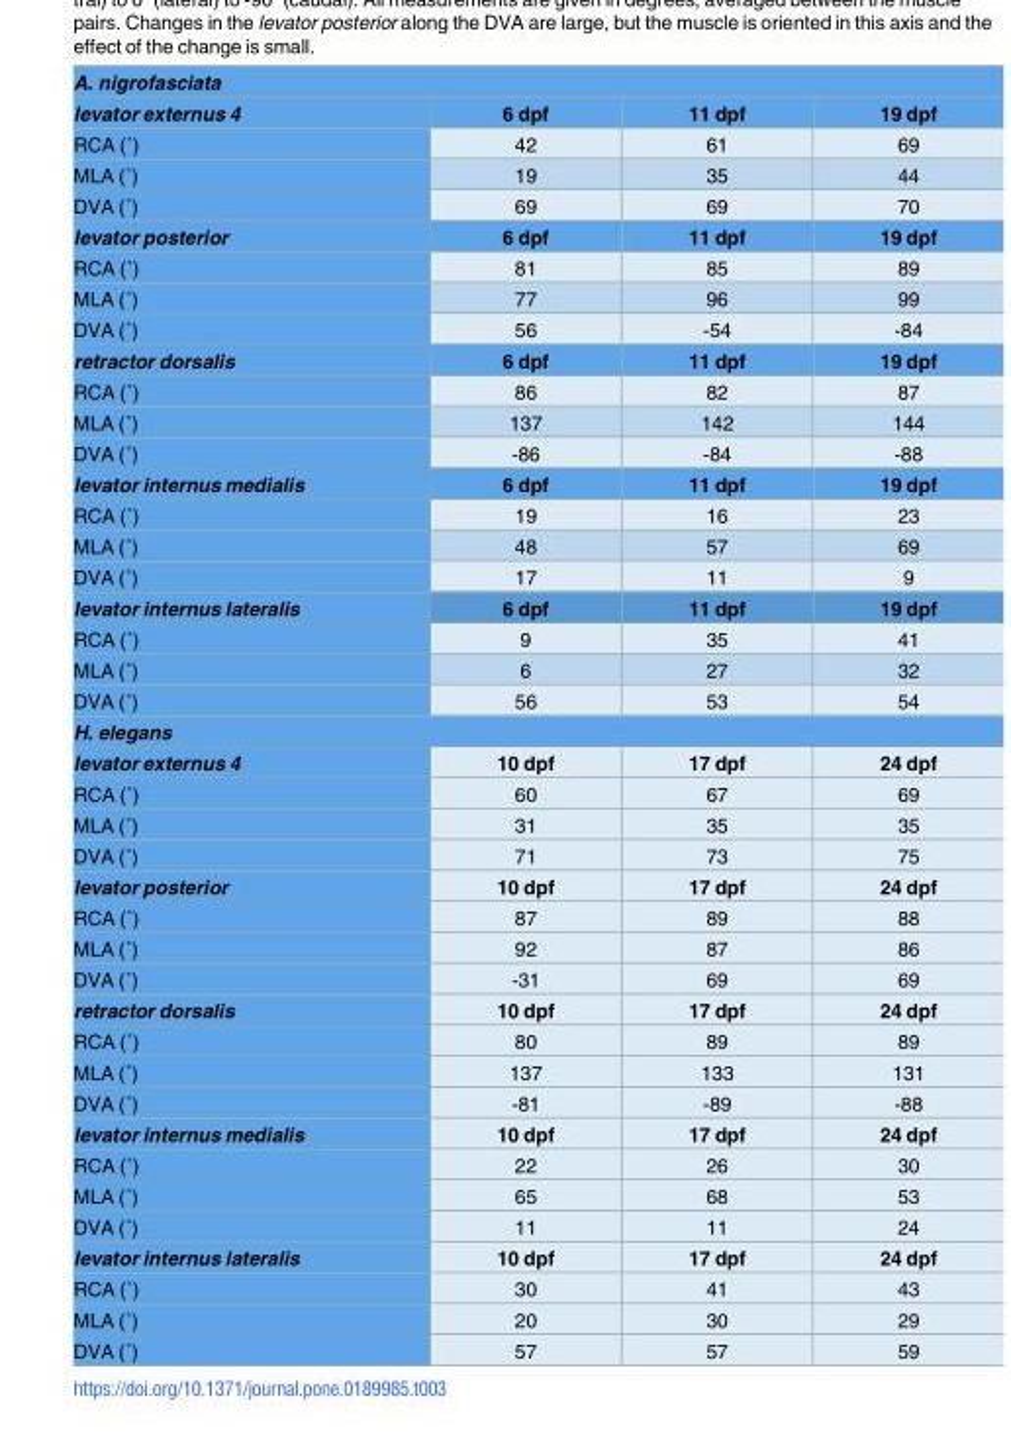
<table><thead><tr><td colspan="4">A. nigrofasciata</td></tr><tr><td>levator externus 4</td><td>6 dpf</td><td>11 dpf</td><td>19 dpf</td></tr></thead><tbody><tr><td>RCA (˚)</td><td>42</td><td>61</td><td>69</td></tr><tr><td>MLA (˚)</td><td>19</td><td>35</td><td>44</td></tr><tr><td>DVA (˚)</td><td>69</td><td>69</td><td>70</td></tr><tr><td>levator posterior</td><td>6 dpf</td><td>11 dpf</td><td>19 dpf</td></tr><tr><td>RCA (˚)</td><td>81</td><td>85</td><td>89</td></tr><tr><td>MLA (˚)</td><td>77</td><td>96</td><td>99</td></tr><tr><td>DVA (˚)</td><td>56</td><td>-54</td><td>-84</td></tr><tr><td>retractor dorsalis</td><td>6 dpf</td><td>11 dpf</td><td>19 dpf</td></tr><tr><td>RCA (˚)</td><td>86</td><td>82</td><td>87</td></tr><tr><td>MLA (˚)</td><td>137</td><td>142</td><td>144</td></tr><tr><td>DVA (˚)</td><td>-86</td><td>-84</td><td>-88</td></tr><tr><td>levator internus medialis</td><td>6 dpf</td><td>11 dpf</td><td>19 dpf</td></tr><tr><td>RCA (˚)</td><td>19</td><td>16</td><td>23</td></tr><tr><td>MLA (˚)</td><td>48</td><td>57</td><td>69</td></tr><tr><td>DVA (˚)</td><td>17</td><td>11</td><td>9</td></tr><tr><td>levator internus lateralis</td><td>6 dpf</td><td>11 dpf</td><td>19 dpf</td></tr><tr><td>RCA (˚)</td><td>9</td><td>35</td><td>41</td></tr><tr><td>MLA (˚)</td><td>6</td><td>27</td><td>32</td></tr><tr><td>DVA (˚)</td><td>56</td><td>53</td><td>54</td></tr><tr><td colspan="4">H. elegans</td></tr><tr><td>levator externus 4</td><td>10 dpf</td><td>17 dpf</td><td>24 dpf</td></tr><tr><td>RCA (˚)</td><td>60</td><td>67</td><td>69</td></tr><tr><td>MLA (˚)</td><td>31</td><td>35</td><td>35</td></tr><tr><td>DVA (˚)</td><td>71</td><td>73</td><td>75</td></tr><tr><td>levator posterior</td><td>10 dpf</td><td>17 dpf</td><td>24 dpf</td></tr><tr><td>RCA (˚)</td><td>87</td><td>89</td><td>88</td></tr><tr><td>MLA (˚)</td><td>92</td><td>87</td><td>86</td></tr><tr><td>DVA (˚)</td><td>-31</td><td>69</td><td>69</td></tr><tr><td>retractor dorsalis</td><td>10 dpf</td><td>17 dpf</td><td>24 dpf</td></tr><tr><td>RCA (˚)</td><td>80</td><td>89</td><td>89</td></tr><tr><td>MLA (˚)</td><td>137</td><td>133</td><td>131</td></tr><tr><td>DVA (˚)</td><td>-81</td><td>-89</td><td>-88</td></tr><tr><td>levator internus medialis</td><td>10 dpf</td><td>17 dpf</td><td>24 dpf</td></tr><tr><td>RCA (˚)</td><td>22</td><td>26</td><td>30</td></tr><tr><td>MLA (˚)</td><td>65</td><td>68</td><td>53</td></tr><tr><td>DVA (˚)</td><td>11</td><td>11</td><td>24</td></tr><tr><td>levator internus lateralis</td><td>10 dpf</td><td>17 dpf</td><td>24 dpf</td></tr><tr><td>RCA (˚)</td><td>30</td><td>41</td><td>43</td></tr><tr><td>MLA (˚)</td><td>20</td><td>30</td><td>29</td></tr><tr><td>DVA (˚)</td><td>57</td><td>57</td><td>59</td></tr></tbody></table>